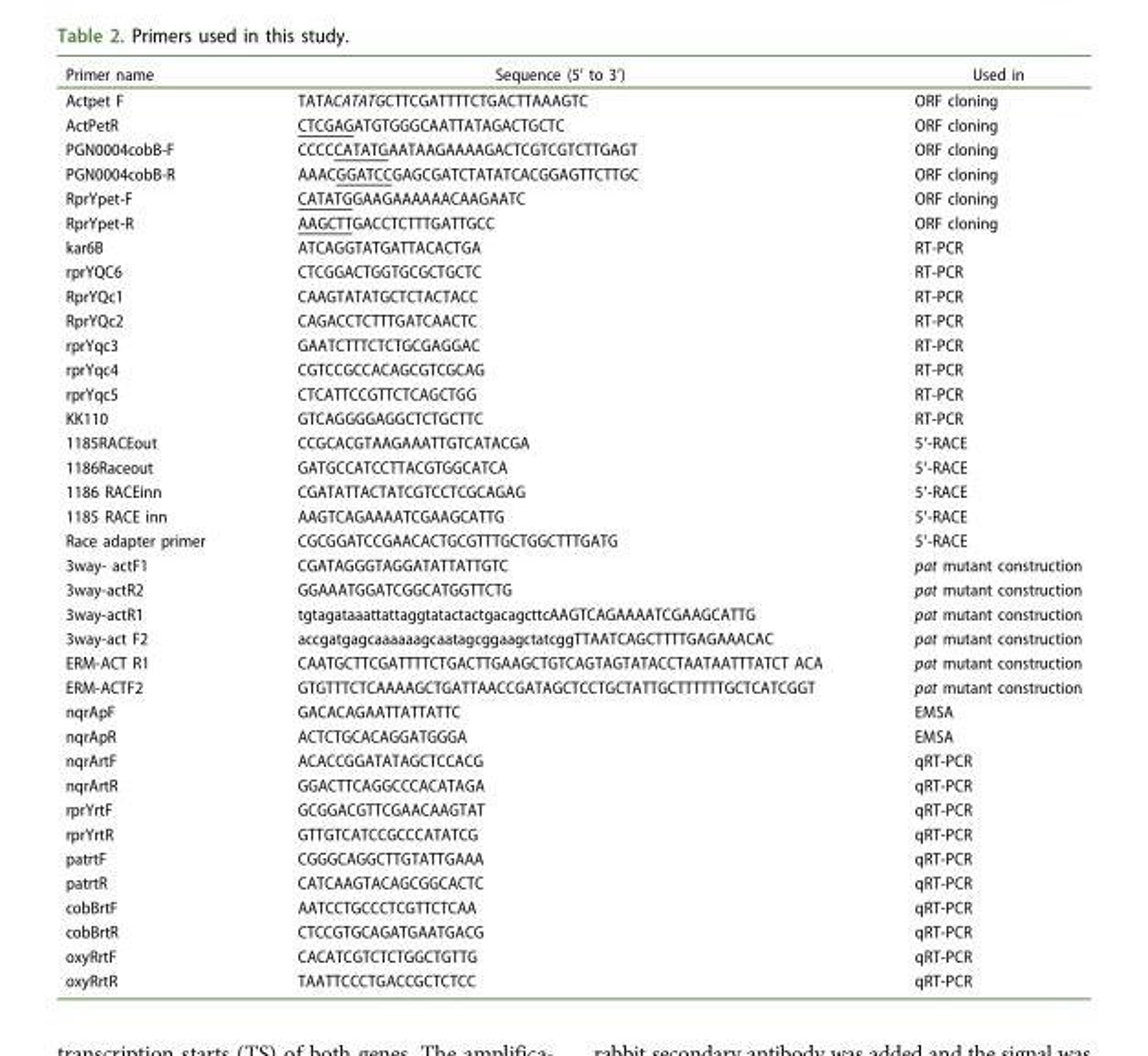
<table><thead><tr><td>Primer name</td><td>Sequence (5’ to 3’)</td><td>Used in</td></tr></thead><tbody><tr><td>Actpet F</td><td>TATACATATGCTTCGATTTTCTGACTTAAAGTC</td><td>ORF cloning</td></tr><tr><td>ActPetR</td><td>CTCGAGATGTGGGCAATTATAGACTGCTC</td><td>ORF cloning</td></tr><tr><td>PGN0004cobB-F</td><td>CCCCCATATGAATAAGAAAAGACTCGTCGTCTTGAGT</td><td>ORF cloning</td></tr><tr><td>PGN0004cobB-R</td><td>AAACGGATCCGAGCGATCTATATCACGGAGTTCTTGC</td><td>ORF cloning</td></tr><tr><td>RprYpet-F</td><td>CATATGGAAGAAAAAACAAGAATC</td><td>ORF cloning</td></tr><tr><td>RprYpet-R</td><td>AAGCTTGACCTCTTTGATTGCC</td><td>ORF cloning</td></tr><tr><td>kar6B</td><td>ATCAGGTATGATTACACTGA</td><td>RT-PCR</td></tr><tr><td>rprYQC6</td><td>CTCGGACTGGTGCGCTGCTC</td><td>RT-PCR</td></tr><tr><td>RprYQc1</td><td>CAAGTATATGCTCTACTACC</td><td>RT-PCR</td></tr><tr><td>RprYQc2</td><td>CAGACCTCTTTGATCAACTC</td><td>RT-PCR</td></tr><tr><td>rprYqc3</td><td>GAATCTTTCTCTGCGAGGAC</td><td>RT-PCR</td></tr><tr><td>rprYqc4</td><td>CGTCCGCCACAGCGTCGCAG</td><td>RT-PCR</td></tr><tr><td>rprYqc5</td><td>CTCATTCCGTTCTCAGCTGG</td><td>RT-PCR</td></tr><tr><td>KK110</td><td>GTCAGGGGAGGCTCTGCTTC</td><td>RT-PCR</td></tr><tr><td>1185RACEout</td><td>CCGCACGTAAGAAATTGTCATACGA</td><td>5ʹ-RACE</td></tr><tr><td>1186Raceout</td><td>GATGCCATCCTTACGTGGCATCA</td><td>5ʹ-RACE</td></tr><tr><td>1186 RACEinn</td><td>CGATATTACTATCGTCCTCGCAGAG</td><td>5ʹ-RACE</td></tr><tr><td>1185 RACE inn</td><td>AAGTCAGAAAATCGAAGCATTG</td><td>5ʹ-RACE</td></tr><tr><td>Race adapter primer</td><td>CGCGGATCCGAACACTGCGTTTGCTGGCTTTGATG</td><td>5ʹ-RACE</td></tr><tr><td>3way- actF1</td><td>CGATAGGGTAGGATATTATTGTC</td><td>pat mutant construction</td></tr><tr><td>3way-actR2</td><td>GGAAATGGATCGGCATGGTTCTG</td><td>pat mutant construction</td></tr><tr><td>3way-actR1</td><td>tgtagataaattattaggtatactactgacagcttcAAGTCAGAAAATCGAAGCATTG</td><td>pat mutant construction</td></tr><tr><td>3way-act F2</td><td>accgatgagcaaaaaagcaatagcggaagctatcggTTAATCAGCTTTTGAGAAACAC</td><td>pat mutant construction</td></tr><tr><td>ERM-ACT R1</td><td>CAATGCTTCGATTTTCTGACTTGAAGCTGTCAGTAGTATACCTAATAATTTATCT ACA</td><td>pat mutant construction</td></tr><tr><td>ERM-ACTF2</td><td>GTGTTTCTCAAAAGCTGATTAACCGATAGCTCCTGCTATTGCTTTTTTGCTCATCGGT</td><td>pat mutant construction</td></tr><tr><td>nqrApF</td><td>GACACAGAATTATTATTC</td><td>EMSA</td></tr><tr><td>nqrApR</td><td>ACTCTGCACAGGATGGGA</td><td>EMSA</td></tr><tr><td>nqrArtF</td><td>ACACCGGATATAGCTCCACG</td><td>qRT-PCR</td></tr><tr><td>nqrArtR</td><td>GGACTTCAGGCCCACATAGA</td><td>qRT-PCR</td></tr><tr><td>rprYrtF</td><td>GCGGACGTTCGAACAAGTAT</td><td>qRT-PCR</td></tr><tr><td>rprYrtR</td><td>GTTGTCATCCGCCCATATCG</td><td>qRT-PCR</td></tr><tr><td>patrtF</td><td>CGGGCAGGCTTGTATTGAAA</td><td>qRT-PCR</td></tr><tr><td>patrtR</td><td>CATCAAGTACAGCGGCACTC</td><td>qRT-PCR</td></tr><tr><td>cobBrtF</td><td>AATCCTGCCCTCGTTCTCAA</td><td>qRT-PCR</td></tr><tr><td>cobBrtR</td><td>CTCCGTGCAGATGAATGACG</td><td>qRT-PCR</td></tr><tr><td>oxyRrtF</td><td>CACATCGTCTCTGGCTGTTG</td><td>qRT-PCR</td></tr><tr><td>oxyRrtR</td><td>TAATTCCCTGACCGCTCTCC</td><td>qRT-PCR</td></tr></tbody></table>